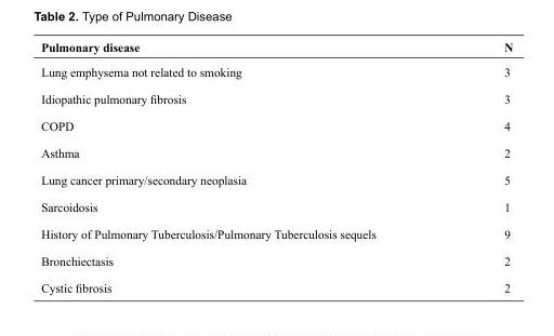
<table><thead><tr><td>Pulmonary disease</td><td>N</td></tr></thead><tbody><tr><td>Lung emphysema not related to smoking</td><td>3</td></tr><tr><td>Idiopathic pulmonary fibrosis</td><td>3</td></tr><tr><td>COPD</td><td>4</td></tr><tr><td>Asthma</td><td>2</td></tr><tr><td>Lung cancer primary/secondary neoplasia</td><td>5</td></tr><tr><td>Sarcoidosis</td><td>1</td></tr><tr><td>History of Pulmonary Tuberculosis/Pulmonary Tuberculosis sequels</td><td>9</td></tr><tr><td>Bronchiectasis</td><td>2</td></tr><tr><td>Cystic fibrosis</td><td>2</td></tr></tbody></table>